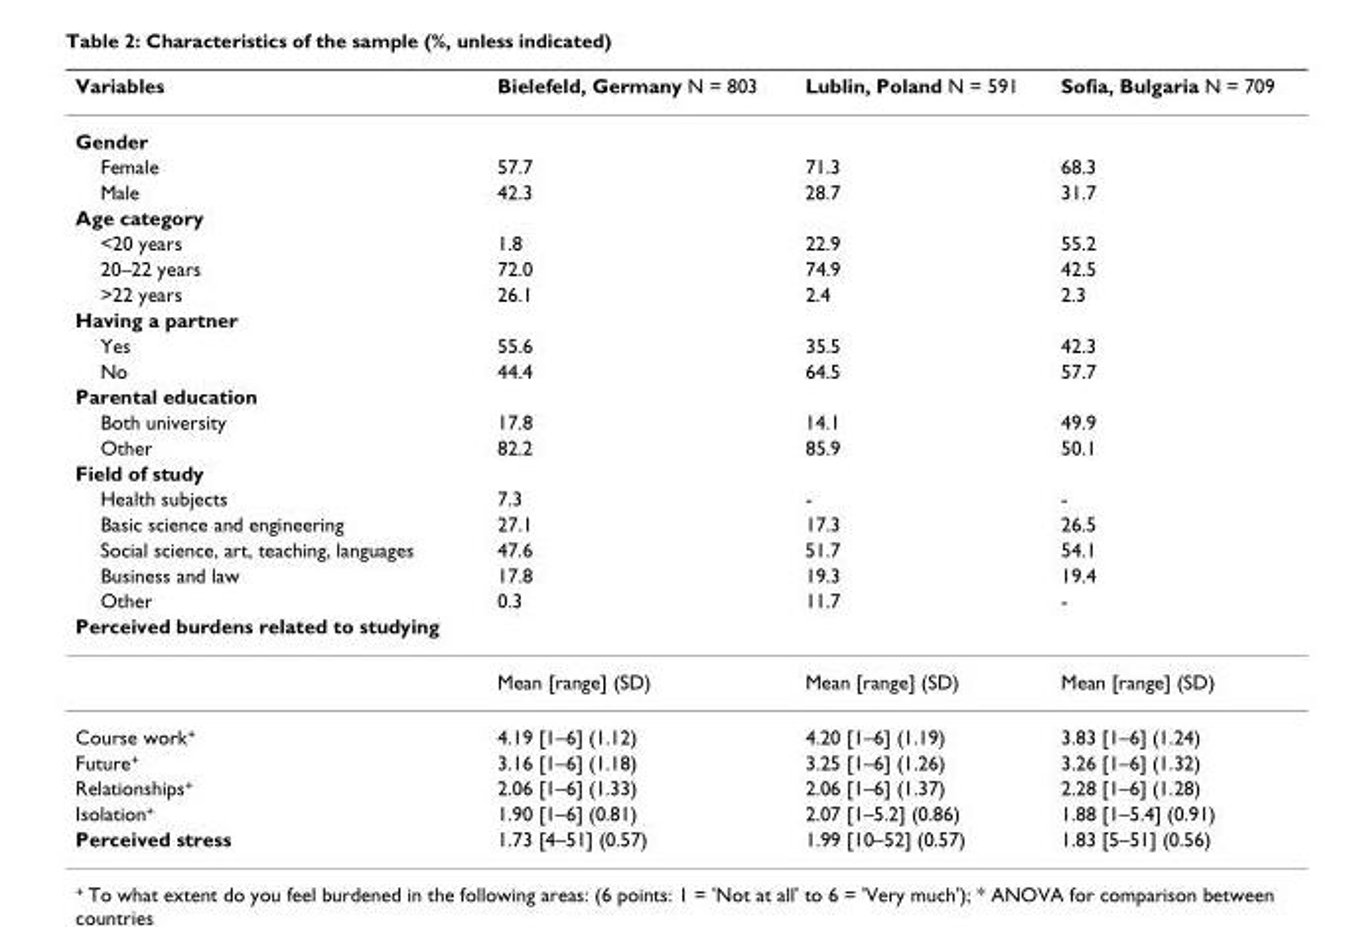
<table><thead><tr><td>Variables</td><td>Bielefeld, Germany N = 803</td><td>Lublin, Poland N = 591</td><td>Sofia, Bulgaria N = 709</td></tr></thead><tbody><tr><td colspan="4">Gender</td></tr><tr><td>Female</td><td>57.7</td><td>71.3</td><td>68.3</td></tr><tr><td>Male</td><td>42.3</td><td>28.7</td><td>31.7</td></tr><tr><td colspan="4">Age category</td></tr><tr><td>&lt;20 years</td><td>1.8</td><td>22.9</td><td>55.2</td></tr><tr><td>20–22 years</td><td>72.0</td><td>74.9</td><td>42.5</td></tr><tr><td>&gt;22 years</td><td>26.1</td><td>2.4</td><td>2.3</td></tr><tr><td colspan="4">Having a partner</td></tr><tr><td>Yes</td><td>55.6</td><td>35.5</td><td>42.3</td></tr><tr><td>No</td><td>44.4</td><td>64.5</td><td>57.7</td></tr><tr><td colspan="4">Parental education</td></tr><tr><td>Both university</td><td>17.8</td><td>14.1</td><td>49.9</td></tr><tr><td>Other</td><td>82.2</td><td>85.9</td><td>50.1</td></tr><tr><td colspan="4">Field of study</td></tr><tr><td>Health subjects</td><td>7.3</td><td>-</td><td>-</td></tr><tr><td>Basic science and engineering</td><td>27.1</td><td>17.3</td><td>26.5</td></tr><tr><td>Social science, art, teaching, languages</td><td>47.6</td><td>51.7</td><td>54.1</td></tr><tr><td>Business and law</td><td>17.8</td><td>19.3</td><td>19.4</td></tr><tr><td>Other</td><td>0.3</td><td>11.7</td><td>-</td></tr><tr><td colspan="4">Perceived burdens related to studying</td></tr><tr><td></td><td>Mean [range] (SD)</td><td>Mean [range] (SD)</td><td>Mean [range] (SD)</td></tr><tr><td>Course work<sup>+</sup></td><td>4.19 [1–6] (1.12)</td><td>4.20 [1–6] (1.19)</td><td>3.83 [1–6] (1.24)</td></tr><tr><td>Future<sup>+</sup></td><td>3.16 [1–6] (1.18)</td><td>3.25 [1–6] (1.26)</td><td>3.26 [1–6] (1.32)</td></tr><tr><td>Relationships<sup>+</sup></td><td>2.06 [1–6] (1.33)</td><td>2.06 [1–6] (1.37)</td><td>2.28 [1–6] (1.28)</td></tr><tr><td>Isolation<sup>+</sup></td><td>1.90 [1–6] (0.81)</td><td>2.07 [1–5.2] (0.86)</td><td>1.88 [1–5.4] (0.91)</td></tr><tr><td>Perceived stress</td><td>1.73 [4–51] (0.57)</td><td>1.99 [10–52] (0.57)</td><td>1.83 [5–51] (0.56)</td></tr></tbody></table>